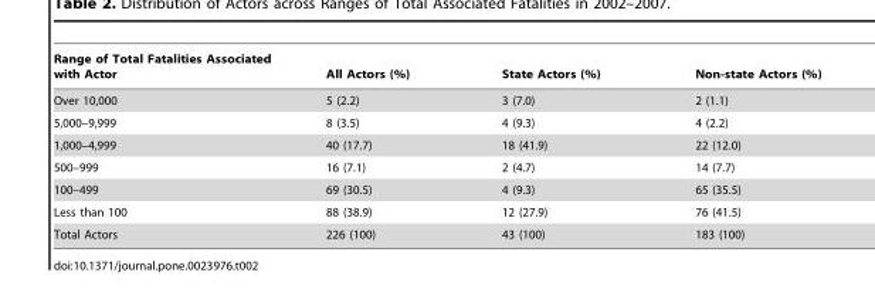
<table><thead><tr><td>Range of Total Fatalities Associated with Actor</td><td>All Actors (%)</td><td>State Actors (%)</td><td>Non-state Actors (%)</td></tr></thead><tbody><tr><td>Over 10,000</td><td>5 (2.2)</td><td>3 (7.0)</td><td>2 (1.1)</td></tr><tr><td>5,000–9,999</td><td>8 (3.5)</td><td>4 (9.3)</td><td>4 (2.2)</td></tr><tr><td>1,000–4,999</td><td>40 (17.7)</td><td>18 (41.9)</td><td>22 (12.0)</td></tr><tr><td>500–999</td><td>16 (7.1)</td><td>2 (4.7)</td><td>14 (7.7)</td></tr><tr><td>100–499</td><td>69 (30.5)</td><td>4 (9.3)</td><td>65 (35.5)</td></tr><tr><td>Less than 100</td><td>88 (38.9)</td><td>12 (27.9)</td><td>76 (41.5)</td></tr><tr><td>Total Actors</td><td>226 (100)</td><td>43 (100)</td><td>183 (100)</td></tr></tbody></table>